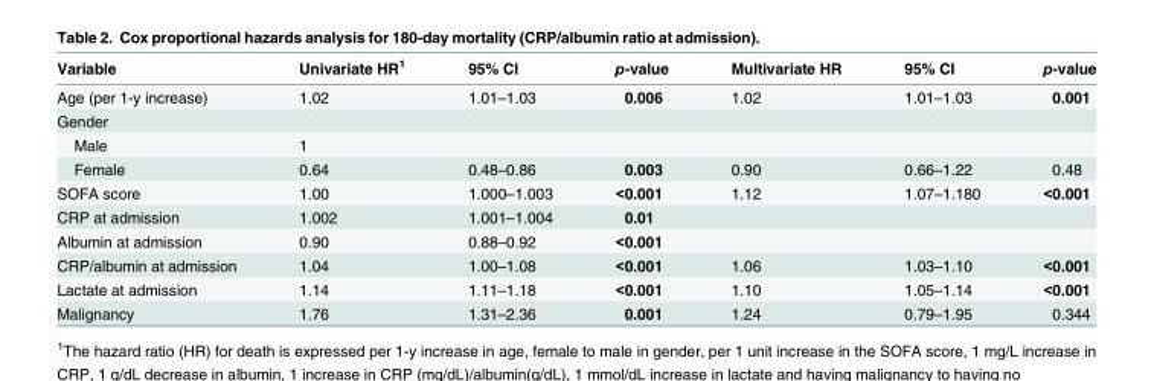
<table><thead><tr><td>Variable</td><td>Univariate HR<sup>1</sup></td><td>95% CI</td><td>p-value</td><td>Multivariate HR</td><td>95% CI</td><td>p-value</td></tr></thead><tbody><tr><td>Age (per 1-y increase)</td><td>1.02</td><td>1.01–1.03</td><td>0.006</td><td>1.02</td><td>1.01–1.03</td><td>0.001</td></tr><tr><td colspan="7">Gender</td></tr><tr><td>Male</td><td>1</td><td></td><td></td><td></td><td></td><td></td></tr><tr><td>Female</td><td>0.64</td><td>0.48–0.86</td><td>0.003</td><td>0.90</td><td>0.66–1.22</td><td>0.48</td></tr><tr><td>SOFA score</td><td>1.00</td><td>1.000–1.003</td><td>&lt;0.001</td><td>1.12</td><td>1.07–1.180</td><td>&lt;0.001</td></tr><tr><td>CRP at admission</td><td>1.002</td><td>1.001–1.004</td><td>0.01</td><td></td><td></td><td></td></tr><tr><td>Albumin at admission</td><td>0.90</td><td>0.88–0.92</td><td>&lt;0.001</td><td></td><td></td><td></td></tr><tr><td>CRP/albumin at admission</td><td>1.04</td><td>1.00–1.08</td><td>&lt;0.001</td><td>1.06</td><td>1.03–1.10</td><td>&lt;0.001</td></tr><tr><td>Lactate at admission</td><td>1.14</td><td>1.11–1.18</td><td>&lt;0.001</td><td>1.10</td><td>1.05–1.14</td><td>&lt;0.001</td></tr><tr><td>Malignancy</td><td>1.76</td><td>1.31–2.36</td><td>0.001</td><td>1.24</td><td>0.79–1.95</td><td>0.344</td></tr></tbody></table>